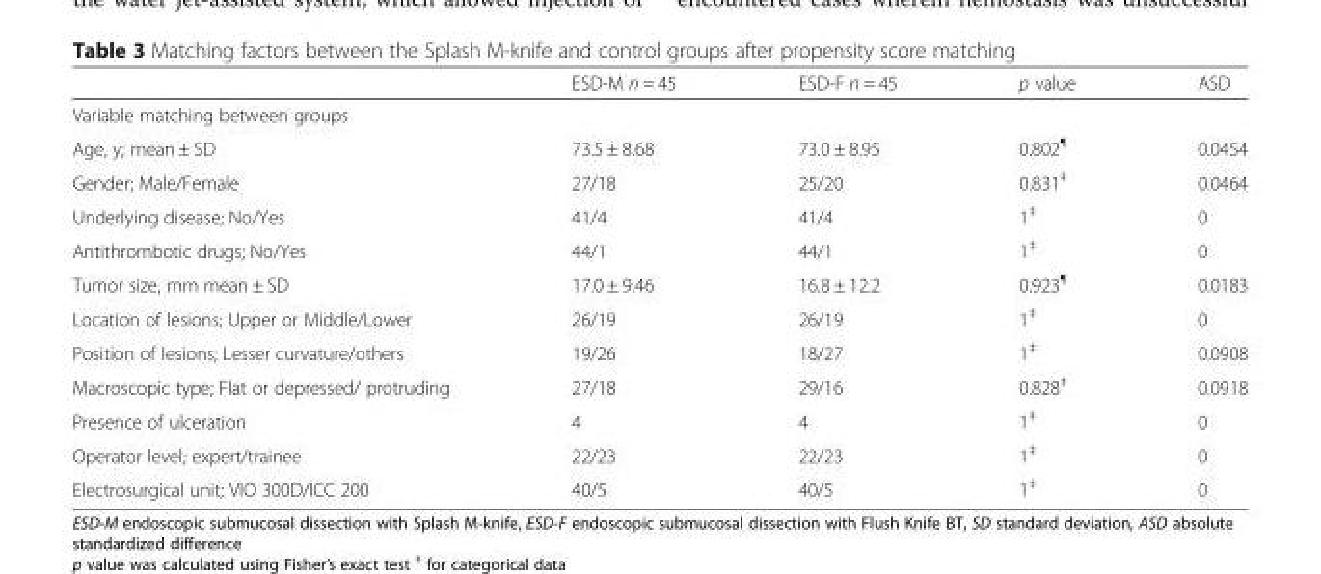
<table><thead><tr><td></td><td>ESD-M n = 45</td><td>ESD-F n = 45</td><td>p value</td><td>ASD</td></tr></thead><tbody><tr><td colspan="5">Variable matching between groups</td></tr><tr><td>Age, y; mean ± SD</td><td>73.5 ± 8.68</td><td>73.0 ± 8.95</td><td>0.802<sup>¶</sup></td><td>0.0454</td></tr><tr><td>Gender; Male/Female</td><td>27/18</td><td>25/20</td><td>0.831<sup>‡</sup></td><td>0.0464</td></tr><tr><td>Underlying disease; No/Yes</td><td>41/4</td><td>41/4</td><td>1<sup>‡</sup></td><td>0</td></tr><tr><td>Antithrombotic drugs; No/Yes</td><td>44/1</td><td>44/1</td><td>1<sup>‡</sup></td><td>0</td></tr><tr><td>Tumor size, mm mean ± SD</td><td>17.0 ± 9.46</td><td>16.8 ± 12.2</td><td>0.923<sup>¶</sup></td><td>0.0183</td></tr><tr><td>Location of lesions; Upper or Middle/Lower</td><td>26/19</td><td>26/19</td><td>1<sup>‡</sup></td><td>0</td></tr><tr><td>Position of lesions; Lesser curvature/others</td><td>19/26</td><td>18/27</td><td>1<sup>‡</sup></td><td>0.0908</td></tr><tr><td>Macroscopic type; Flat or depressed/ protruding</td><td>27/18</td><td>29/16</td><td>0.828<sup>‡</sup></td><td>0.0918</td></tr><tr><td>Presence of ulceration</td><td>4</td><td>4</td><td>1<sup>‡</sup></td><td>0</td></tr><tr><td>Operator level; expert/trainee</td><td>22/23</td><td>22/23</td><td>1<sup>‡</sup></td><td>0</td></tr><tr><td>Electrosurgical unit; VIO 300D/ICC 200</td><td>40/5</td><td>40/5</td><td>1<sup>‡</sup></td><td>0</td></tr></tbody></table>